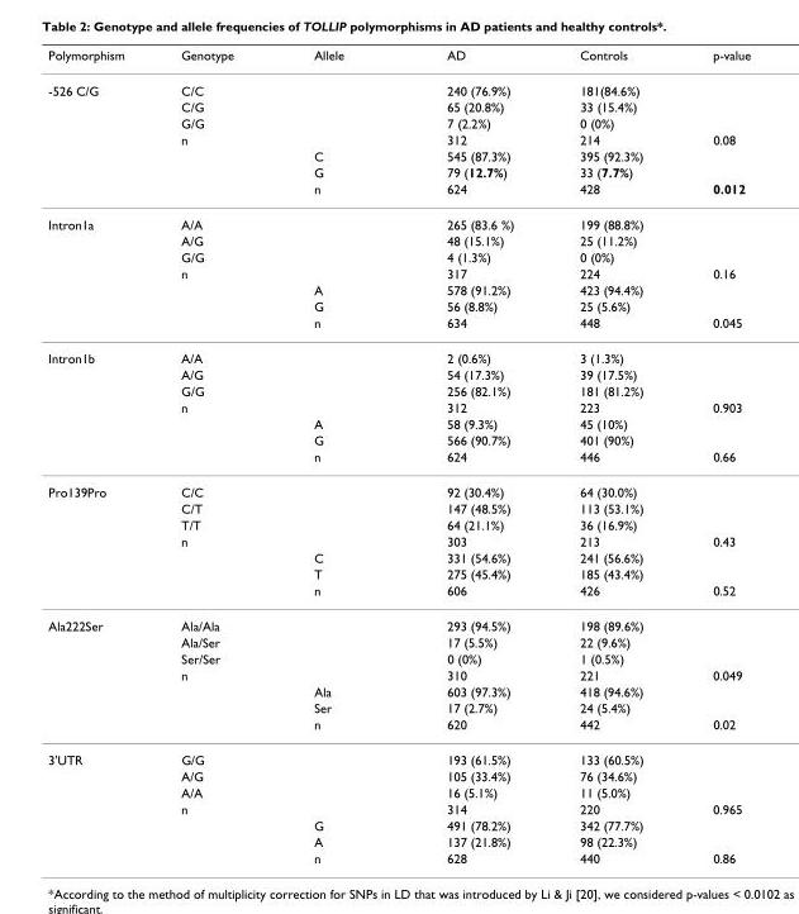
<table><thead><tr><td>Polymorphism</td><td>Genotype</td><td>Allele</td><td>AD</td><td>Controls</td><td>p-value</td></tr></thead><tbody><tr><td rowspan="7">-526 C/G</td><td>C/C</td><td></td><td>240 (76.9%)</td><td>181(84.6%)</td><td></td></tr><tr><td>C/G</td><td></td><td>65 (20.8%)</td><td>33 (15.4%)</td><td></td></tr><tr><td>G/G</td><td></td><td>7 (2.2%)</td><td>0 (0%)</td><td></td></tr><tr><td>n</td><td></td><td>312</td><td>214</td><td>0.08</td></tr><tr><td></td><td>C</td><td>545 (87.3%)</td><td>395 (92.3%)</td><td></td></tr><tr><td></td><td>G</td><td>79 (12.7%)</td><td>33 (7.7%)</td><td></td></tr><tr><td></td><td>n</td><td>624</td><td>428</td><td>0.012</td></tr><tr><td rowspan="7">Intron1a</td><td>A/A</td><td></td><td>265 (83.6 %)</td><td>199 (88.8%)</td><td></td></tr><tr><td>A/G</td><td></td><td>48 (15.1%)</td><td>25 (11.2%)</td><td></td></tr><tr><td>G/G</td><td></td><td>4 (1.3%)</td><td>0 (0%)</td><td></td></tr><tr><td>n</td><td></td><td>317</td><td>224</td><td>0.16</td></tr><tr><td></td><td>A</td><td>578 (91.2%)</td><td>423 (94.4%)</td><td></td></tr><tr><td></td><td>G</td><td>56 (8.8%)</td><td>25 (5.6%)</td><td></td></tr><tr><td></td><td>n</td><td>634</td><td>448</td><td>0.045</td></tr><tr><td rowspan="7">Intron1b</td><td>A/A</td><td></td><td>2 (0.6%)</td><td>3 (1.3%)</td><td></td></tr><tr><td>A/G</td><td></td><td>54 (17.3%)</td><td>39 (17.5%)</td><td></td></tr><tr><td>G/G</td><td></td><td>256 (82.1%)</td><td>181 (81.2%)</td><td></td></tr><tr><td>n</td><td></td><td>312</td><td>223</td><td>0.903</td></tr><tr><td></td><td>A</td><td>58 (9.3%)</td><td>45 (10%)</td><td></td></tr><tr><td></td><td>G</td><td>566 (90.7%)</td><td>401 (90%)</td><td></td></tr><tr><td></td><td>n</td><td>624</td><td>446</td><td>0.66</td></tr><tr><td rowspan="7">Pro139Pro</td><td>C/C</td><td></td><td>92 (30.4%)</td><td>64 (30.0%)</td><td></td></tr><tr><td>C/T</td><td></td><td>147 (48.5%)</td><td>113 (53.1%)</td><td></td></tr><tr><td>T/T</td><td></td><td>64 (21.1%)</td><td>36 (16.9%)</td><td></td></tr><tr><td>n</td><td></td><td>303</td><td>213</td><td>0.43</td></tr><tr><td></td><td>C</td><td>331 (54.6%)</td><td>241 (56.6%)</td><td></td></tr><tr><td></td><td>T</td><td>275 (45.4%)</td><td>185 (43.4%)</td><td></td></tr><tr><td></td><td>n</td><td>606</td><td>426</td><td>0.52</td></tr><tr><td rowspan="7">Ala222Ser</td><td>Ala/Ala</td><td></td><td>293 (94.5%)</td><td>198 (89.6%)</td><td></td></tr><tr><td>Ala/Ser</td><td></td><td>17 (5.5%)</td><td>22 (9.6%)</td><td></td></tr><tr><td>Ser/Ser</td><td></td><td>0 (0%)</td><td>1 (0.5%)</td><td></td></tr><tr><td>n</td><td></td><td>310</td><td>221</td><td>0.049</td></tr><tr><td></td><td>Ala</td><td>603 (97.3%)</td><td>418 (94.6%)</td><td></td></tr><tr><td></td><td>Ser</td><td>17 (2.7%)</td><td>24 (5.4%)</td><td></td></tr><tr><td></td><td>n</td><td>620</td><td>442</td><td>0.02</td></tr><tr><td rowspan="7">3&#x27;UTR</td><td>G/G</td><td></td><td>193 (61.5%)</td><td>133 (60.5%)</td><td></td></tr><tr><td>A/G</td><td></td><td>105 (33.4%)</td><td>76 (34.6%)</td><td></td></tr><tr><td>A/A</td><td></td><td>16 (5.1%)</td><td>11 (5.0%)</td><td></td></tr><tr><td>n</td><td></td><td>314</td><td>220</td><td>0.965</td></tr><tr><td></td><td>G</td><td>491 (78.2%)</td><td>342 (77.7%)</td><td></td></tr><tr><td></td><td>A</td><td>137 (21.8%)</td><td>98 (22.3%)</td><td></td></tr><tr><td></td><td>n</td><td>628</td><td>440</td><td>0.86</td></tr></tbody></table>